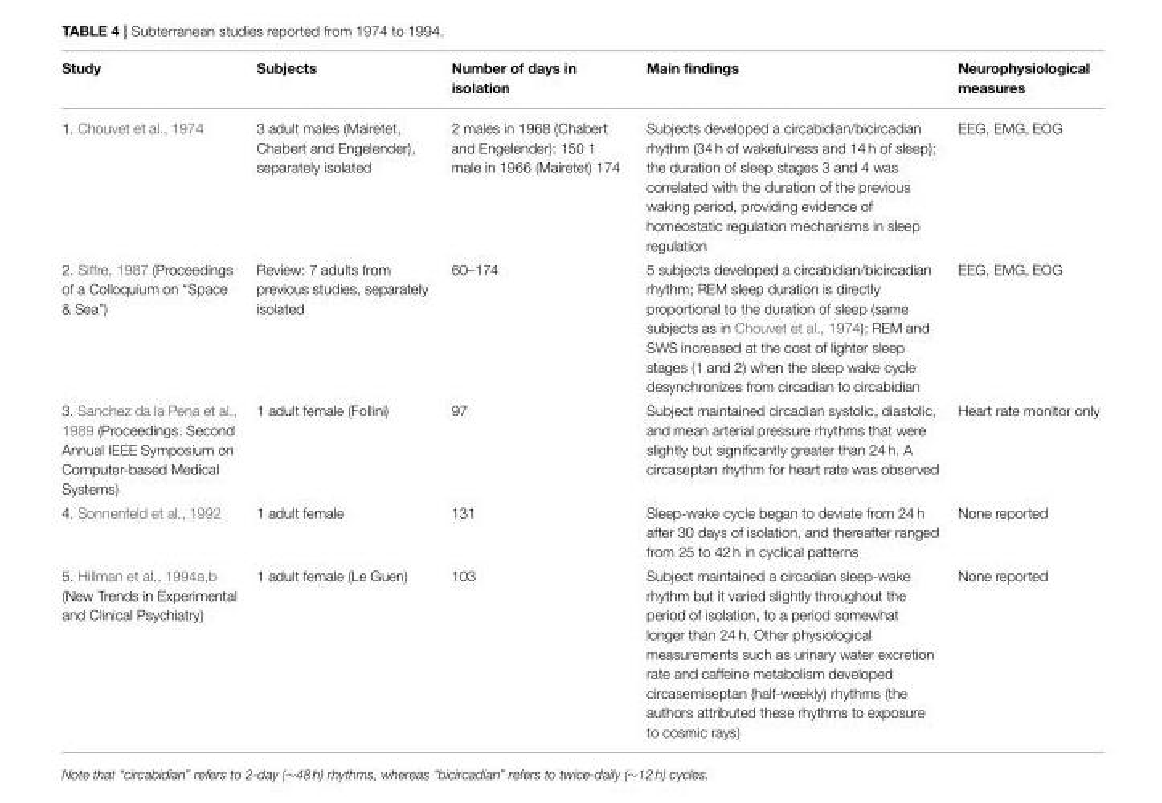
<table><thead><tr><td>Study</td><td>Subjects</td><td>Number of days in isolation</td><td>Main findings</td><td>Neurophysiological measures</td></tr></thead><tbody><tr><td>1. Chouvet et al., 1974</td><td>3 adult males (Mairetet, Chabert and Engelender), separately isolated</td><td>2 males in 1968 (Chabert and Engelender): 150 1 male in 1966 (Mairetet) 174</td><td>Subjects developed a circabidian/bicircadian rhythm (34 h of wakefulness and 14 h of sleep); the duration of sleep stages 3 and 4 was correlated with the duration of the previous waking period, providing evidence of homeostatic regulation mechanisms in sleep regulation</td><td>EEG, EMG, EOG</td></tr><tr><td>2. Siffre, 1987 (Proceedings of a Colloquium on “Space &amp; Sea”)</td><td>Review: 7 adults from previous studies, separately isolated</td><td>60–174</td><td>5 subjects developed a circabidian/bicircadian rhythm; REM sleep duration is directly proportional to the duration of sleep (same subjects as in Chouvet et al., 1974); REM and SWS increased at the cost of lighter sleep stages (1 and 2) when the sleep wake cycle desynchronizes from circadian to circabidian</td><td>EEG, EMG, EOG</td></tr><tr><td>3. Sanchez da la Pena et al., 1989 (Proceedings. Second Annual IEEE Symposium on Computer-based Medical Systems)</td><td>1 adult female (Follini)</td><td>97</td><td>Subject maintained circadian systolic, diastolic, and mean arterial pressure rhythms that were slightly but significantly greater than 24 h. A circaseptan rhythm for heart rate was observed</td><td>Heart rate monitor only</td></tr><tr><td>4. Sonnenfeld et al., 1992</td><td>1 adult female</td><td>131</td><td>Sleep-wake cycle began to deviate from 24 h after 30 days of isolation, and thereafter ranged from 25 to 42 h in cyclical patterns</td><td>None reported</td></tr><tr><td>5. Hillman et al., 1994a,b (New Trends in Experimental and Clinical Psychiatry)</td><td>1 adult female (Le Guen)</td><td>103</td><td>Subject maintained a circadian sleep-wake rhythm but it varied slightly throughout the period of isolation, to a period somewhat longer than 24 h. Other physiological measurements such as urinary water excretion rate and caffeine metabolism developed circasemiseptan (half-weekly) rhythms (the authors attributed these rhythms to exposure to cosmic rays)</td><td>None reported</td></tr></tbody></table>